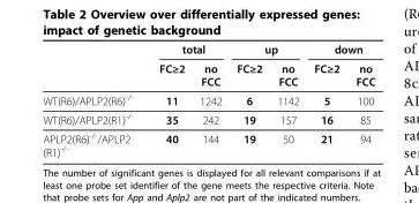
<table><thead><tr><td rowspan="2"></td><td colspan="2">total</td><td colspan="2">up</td><td colspan="2">down</td></tr><tr><td>FC≥2</td><td>no FCC</td><td>FC≥2</td><td>no FCC</td><td>FC≥2</td><td>no FCC</td></tr></thead><tbody><tr><td>WT(R6)/APLP2(R6)<sup>-/-</sup></td><td>11</td><td>1242</td><td>6</td><td>1142</td><td>5</td><td>100</td></tr><tr><td>WT(R6)/APLP2(R1)<sup>-/-</sup></td><td>35</td><td>242</td><td>19</td><td>157</td><td>16</td><td>85</td></tr><tr><td>APLP2(R6)<sup>-/-</sup>/APLP2 (R1)<sup>-/-</sup></td><td>40</td><td>144</td><td>19</td><td>50</td><td>21</td><td>94</td></tr></tbody></table>